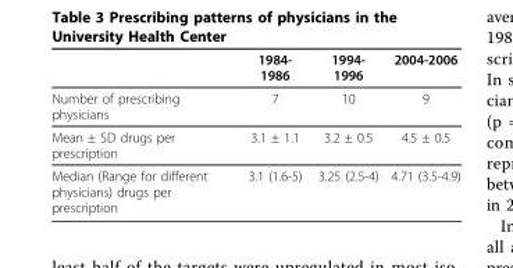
<table><thead><tr><td></td><td>1984- 1986</td><td>1994- 1996</td><td>2004-2006</td></tr></thead><tbody><tr><td>Number of prescribing physicians</td><td>7</td><td>10</td><td>9</td></tr><tr><td>Mean ± SD drugs per prescription</td><td>3.1 ± 1.1</td><td>3.2 ± 0.5</td><td>4.5 ± 0.5</td></tr><tr><td>Median (Range for different physicians) drugs per prescription</td><td>3.1 (1.6-5)</td><td>3.25 (2.5-4)</td><td>4.71 (3.5-4.9)</td></tr></tbody></table>